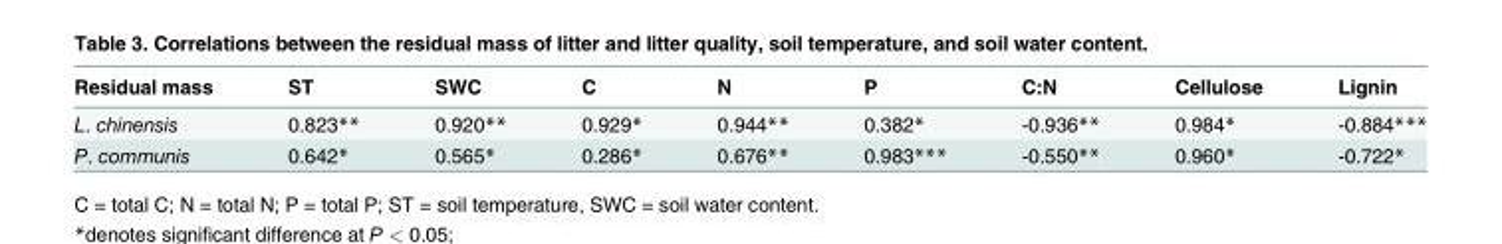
<table><thead><tr><td>Residual mass</td><td>ST</td><td>SWC</td><td>C</td><td>N</td><td>P</td><td>C:N</td><td>Cellulose</td><td>Lignin</td></tr></thead><tbody><tr><td>L. chinensis</td><td>0.823**</td><td>0.920**</td><td>0.929*</td><td>0.944**</td><td>0.382*</td><td>-0.936**</td><td>0.984*</td><td>-0.884***</td></tr><tr><td>P. communis</td><td>0.642*</td><td>0.565*</td><td>0.286*</td><td>0.676**</td><td>0.983***</td><td>-0.550**</td><td>0.960*</td><td>-0.722*</td></tr></tbody></table>